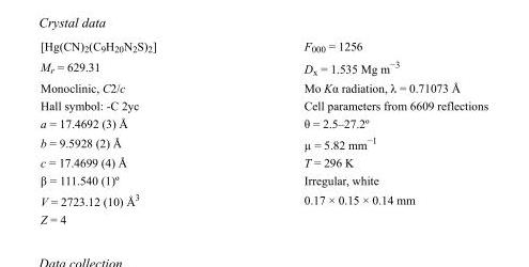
<table><tbody><tr><td>[Hg(CN)<sub>2</sub>(C<sub>9</sub>H<sub>20</sub>N<sub>2</sub>S)<sub>2</sub>]</td><td>F000 = 1256</td></tr><tr><td>M<sub>r</sub> = 629.31</td><td>D<sub>x</sub> = 1.535 Mg m<sup>−3</sup></td></tr><tr><td>Monoclinic, C2/c</td><td>Mo Kα radiation, λ = 0.71073 Å</td></tr><tr><td>Hall symbol: -C 2yc</td><td>Cell parameters from 6609 reflections</td></tr><tr><td>a = 17.4692 (3) Å</td><td>θ = 2.5–27.2º</td></tr><tr><td>b = 9.5928 (2) Å</td><td>µ = 5.82 mm<sup>−1</sup></td></tr><tr><td>c = 17.4699 (4) Å</td><td>T = 296 K</td></tr><tr><td>β = 111.540 (1)º</td><td>Irregular, white</td></tr><tr><td>V = 2723.12 (10) Å<sup>3</sup></td><td>0.17 × 0.15 × 0.14 mm</td></tr><tr><td>Z = 4</td><td></td></tr></tbody></table>